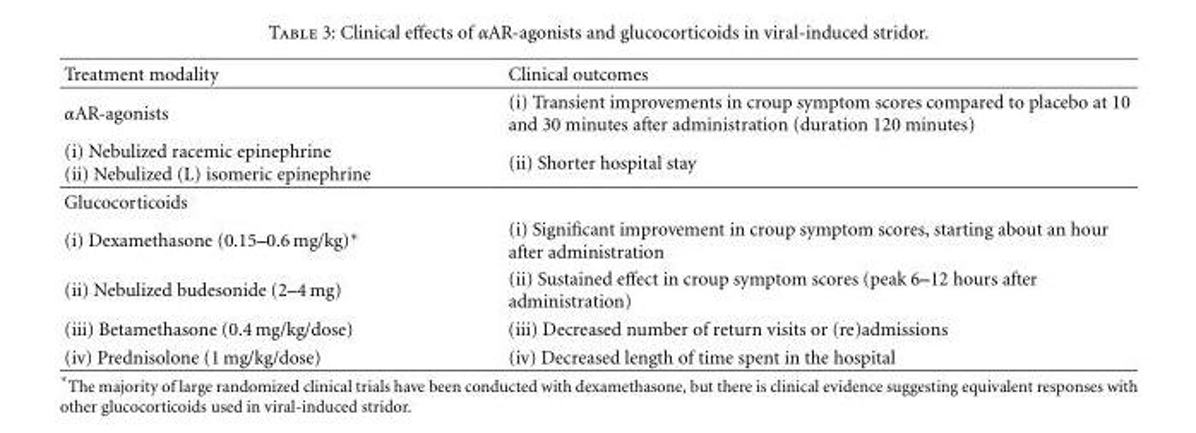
<table><thead><tr><td>Treatment modality</td><td>Clinical outcomes</td></tr></thead><tbody><tr><td>αAR-agonists</td><td>(i) Transient improvements in croup symptom scores compared to placebo at 10 and 30 minutes after administration (duration 120 minutes)</td></tr><tr><td>(i) Nebulized racemic epinephrine (ii) Nebulized (L) isomeric epinephrine</td><td>(ii) Shorter hospital stay</td></tr><tr><td colspan="2">Glucocorticoids</td></tr><tr><td>(i) Dexamethasone (0.15–0.6 mg/kg)∗</td><td>(i) Significant improvement in croup symptom scores, starting about an hour after administration</td></tr><tr><td>(ii) Nebulized budesonide (2–4 mg)</td><td>(ii) Sustained effect in croup symptom scores (peak 6–12 hours after administration)</td></tr><tr><td>(iii) Betamethasone (0.4 mg/kg/dose)</td><td>(iii) Decreased number of return visits or (re)admissions</td></tr><tr><td>(iv) Prednisolone (1 mg/kg/dose)</td><td>(iv) Decreased length of time spent in the hospital</td></tr></tbody></table>